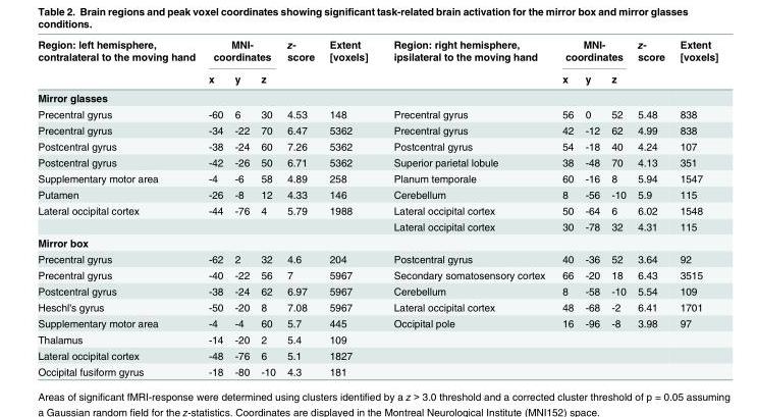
<table><thead><tr><td rowspan="2">Region: left hemisphere, contralateral to the moving hand</td><td colspan="3">MNI- coordinates</td><td rowspan="2">z- score</td><td rowspan="2">Extent [voxels]</td><td rowspan="2">Region: right hemisphere, ipsilateral to the moving hand</td><td colspan="3">MNI- coordinates</td><td rowspan="2">z- score</td><td rowspan="2">Extent [voxels]</td></tr><tr><td>x</td><td>y</td><td>z</td><td>x</td><td>y</td><td>z</td></tr></thead><tbody><tr><td colspan="12">Mirror glasses</td></tr><tr><td>Precentral gyrus</td><td>-60</td><td>6</td><td>30</td><td>4.53</td><td>148</td><td>Precentral gyrus</td><td>56</td><td>0</td><td>52</td><td>5.48</td><td>838</td></tr><tr><td>Precentral gyrus</td><td>-34</td><td>-22</td><td>70</td><td>6.47</td><td>5362</td><td>Precentral gyrus</td><td>42</td><td>-12</td><td>62</td><td>4.99</td><td>838</td></tr><tr><td>Postcentral gyrus</td><td>-38</td><td>-24</td><td>60</td><td>7.26</td><td>5362</td><td>Postcentral gyrus</td><td>54</td><td>-18</td><td>40</td><td>4.24</td><td>107</td></tr><tr><td>Postcentral gyrus</td><td>-42</td><td>-26</td><td>50</td><td>6.71</td><td>5362</td><td>Superior parietal lobule</td><td>38</td><td>-48</td><td>70</td><td>4.13</td><td>351</td></tr><tr><td>Supplementary motor area</td><td>-4</td><td>-6</td><td>58</td><td>4.89</td><td>258</td><td>Planum temporale</td><td>60</td><td>-16</td><td>8</td><td>5.94</td><td>1547</td></tr><tr><td>Putamen</td><td>-26</td><td>-8</td><td>12</td><td>4.33</td><td>146</td><td>Cerebellum</td><td>8</td><td>-56</td><td>-10</td><td>5.9</td><td>115</td></tr><tr><td rowspan="2">Lateral occipital cortex</td><td>-44</td><td>-76</td><td>4</td><td>5.79</td><td>1988</td><td>Lateral occipital cortex</td><td>50</td><td>-64</td><td>6</td><td>6.02</td><td>1548</td></tr><tr><td></td><td></td><td></td><td></td><td></td><td>Lateral occipital cortex</td><td>30</td><td>-78</td><td>32</td><td>4.31</td><td>115</td></tr><tr><td colspan="12">Mirror box</td></tr><tr><td>Precentral gyrus</td><td>-62</td><td>2</td><td>32</td><td>4.6</td><td>204</td><td>Postcentral gyrus</td><td>40</td><td>-36</td><td>52</td><td>3.64</td><td>92</td></tr><tr><td>Precentral gyrus</td><td>-40</td><td>-22</td><td>56</td><td>7</td><td>5967</td><td>Secondary somatosensory cortex</td><td>66</td><td>-20</td><td>18</td><td>6.43</td><td>3515</td></tr><tr><td>Postcentral gyrus</td><td>-38</td><td>-24</td><td>62</td><td>6.97</td><td>5967</td><td>Cerebellum</td><td>8</td><td>-58</td><td>-10</td><td>5.54</td><td>109</td></tr><tr><td>Heschl&#x27;s gyrus</td><td>-50</td><td>-20</td><td>8</td><td>7.08</td><td>5967</td><td>Lateral occipital cortex</td><td>48</td><td>-68</td><td>-2</td><td>6.41</td><td>1701</td></tr><tr><td>Supplementary motor area</td><td>-4</td><td>-4</td><td>60</td><td>5.7</td><td>445</td><td>Occipital pole</td><td>16</td><td>-96</td><td>-8</td><td>3.98</td><td>97</td></tr><tr><td>Thalamus</td><td>-14</td><td>-20</td><td>2</td><td>5.4</td><td>109</td><td></td><td></td><td></td><td></td><td></td><td></td></tr><tr><td>Lateral occipital cortex</td><td>-48</td><td>-76</td><td>6</td><td>5.1</td><td>1827</td><td></td><td></td><td></td><td></td><td></td><td></td></tr><tr><td>Occipital fusiform gyrus</td><td>-18</td><td>-80</td><td>-10</td><td>4.3</td><td>181</td><td></td><td></td><td></td><td></td><td></td><td></td></tr></tbody></table>